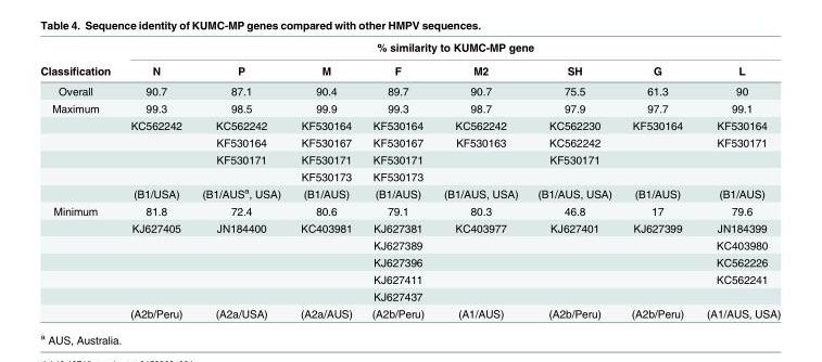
<table><thead><tr><td rowspan="2">Classification</td><td colspan="8">% similarity to KUMC-MP gene</td></tr><tr><td>N</td><td>P</td><td>M</td><td>F</td><td>M2</td><td>SH</td><td>G</td><td>L</td></tr></thead><tbody><tr><td>Overall</td><td>90.7</td><td>87.1</td><td>90.4</td><td>89.7</td><td>90.7</td><td>75.5</td><td>61.3</td><td>90</td></tr><tr><td rowspan="6">Maximum</td><td>99.3</td><td>98.5</td><td>99.9</td><td>99.3</td><td>98.7</td><td>97.9</td><td>97.7</td><td>99.1</td></tr><tr><td>KC562242</td><td>KC562242</td><td>KF530164</td><td>KF530164</td><td>KC562242</td><td>KC562230</td><td>KF530164</td><td>KF530164</td></tr><tr><td></td><td>KF530164</td><td>KF530167</td><td>KF530167</td><td>KF530163</td><td>KC562242</td><td></td><td>KF530171</td></tr><tr><td></td><td>KF530171</td><td>KF530171</td><td>KF530171</td><td></td><td>KF530171</td><td></td><td></td></tr><tr><td></td><td></td><td>KF530173</td><td>KF530173</td><td></td><td></td><td></td><td></td></tr><tr><td>(B1/USA)</td><td>(B1/AUS<sup>a</sup>, USA)</td><td>(B1/AUS)</td><td>(B1/AUS)</td><td>(B1/AUS, USA)</td><td>(B1/AUS, USA)</td><td>(B1/AUS)</td><td>(B1/AUS)</td></tr><tr><td rowspan="7">Minimum</td><td>81.8</td><td>72.4</td><td>80.6</td><td>79.1</td><td>80.3</td><td>46.8</td><td>17</td><td>79.6</td></tr><tr><td>KJ627405</td><td>JN184400</td><td>KC403981</td><td>KJ627381</td><td>KC403977</td><td>KJ627401</td><td>KJ627399</td><td>JN184399</td></tr><tr><td></td><td></td><td></td><td>KJ627389</td><td></td><td></td><td></td><td>KC403980</td></tr><tr><td></td><td></td><td></td><td>KJ627396</td><td></td><td></td><td></td><td>KC562226</td></tr><tr><td></td><td></td><td></td><td>KJ627411</td><td></td><td></td><td></td><td>KC562241</td></tr><tr><td></td><td></td><td></td><td>KJ627437</td><td></td><td></td><td></td><td></td></tr><tr><td>(A2b/Peru)</td><td>(A2a/USA)</td><td>(A2a/AUS)</td><td>(A2b/Peru)</td><td>(A1/AUS)</td><td>(A2b/Peru)</td><td>(A2b/Peru)</td><td>(A1/AUS, USA)</td></tr></tbody></table>